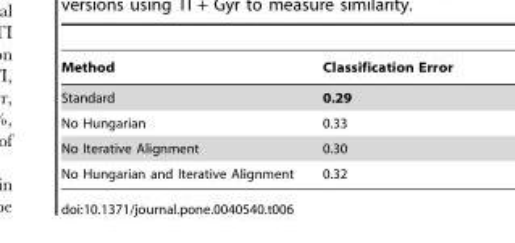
<table><thead><tr><td>Method</td><td>Classification Error</td></tr></thead><tbody><tr><td>Standard</td><td>0.29</td></tr><tr><td>No Hungarian</td><td>0.33</td></tr><tr><td>No Iterative Alignment</td><td>0.30</td></tr><tr><td>No Hungarian and Iterative Alignment</td><td>0.32</td></tr></tbody></table>